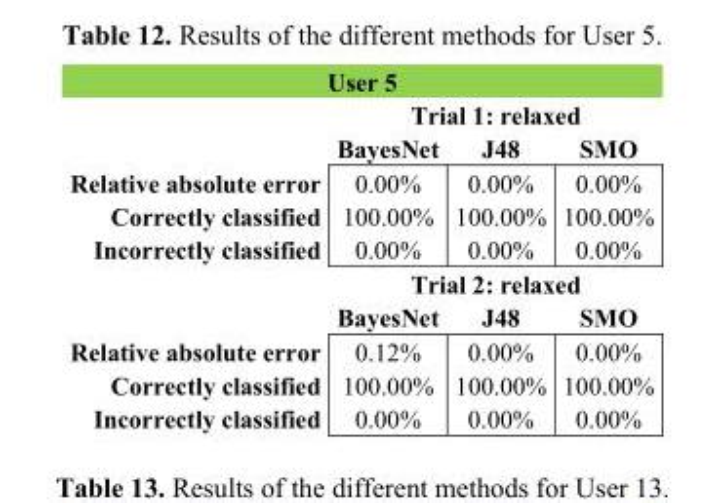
<table><thead><tr><td colspan="4">User 5</td></tr><tr><td rowspan="2"></td><td colspan="3">Trial 1: relaxed</td></tr><tr><td>BayesNet</td><td>J48</td><td>SMO</td></tr></thead><tbody><tr><td>Relative absolute error</td><td>0.00%</td><td>0.00%</td><td>0.00%</td></tr><tr><td>Correctly classified</td><td>100.00%</td><td>100.00%</td><td>100.00%</td></tr><tr><td rowspan="3">Incorrectly classified</td><td>0.00%</td><td>0.00%</td><td>0.00%</td></tr><tr><td colspan="3">Trial 2: relaxed</td></tr><tr><td>BayesNet</td><td>J48</td><td>SMO</td></tr><tr><td>Relative absolute error</td><td>0.12%</td><td>0.00%</td><td>0.00%</td></tr><tr><td>Correctly classified</td><td>100.00%</td><td>100.00%</td><td>100.00%</td></tr><tr><td>Incorrectly classified</td><td>0.00%</td><td>0.00%</td><td>0.00%</td></tr></tbody></table>